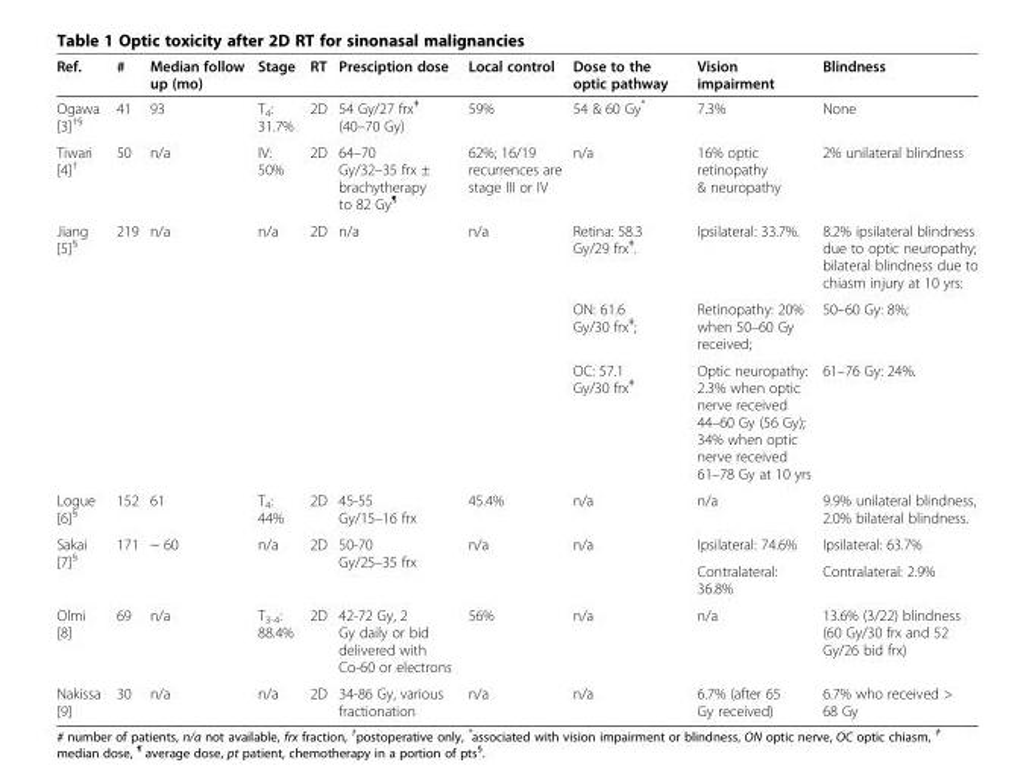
<table><thead><tr><td>Ref.</td><td>#</td><td>Median follow up (mo)</td><td>Stage</td><td>RT</td><td>Presciption dose</td><td>Local control</td><td>Dose to the optic pathway</td><td>Vision impairment</td><td>Blindness</td></tr></thead><tbody><tr><td>Ogawa [3]<sup>†§</sup></td><td>41</td><td>93</td><td>T<sub>4</sub>: 31.7%</td><td>2D</td><td>54 Gy/27 frx<sup>ǂ</sup> (40–70 Gy)</td><td>59%</td><td>54 &amp; 60 Gy*</td><td>7.3%</td><td>None</td></tr><tr><td>Tiwari [4]<sup>†</sup></td><td>50</td><td>n/a</td><td>IV: 50%</td><td>2D</td><td>64–70 Gy/32–35 frx ± brachytherapy to 82 Gy<sup>¶</sup></td><td>62%; 16/19 recurrences are stage III or IV</td><td>n/a</td><td>16% optic retinopathy &amp; neuropathy</td><td>2% unilateral blindness</td></tr><tr><td rowspan="3">Jiang [5]<sup>§</sup></td><td rowspan="3">219</td><td rowspan="3">n/a</td><td rowspan="3">n/a</td><td rowspan="3">2D</td><td rowspan="3">n/a</td><td rowspan="3">n/a</td><td>Retina: 58.3 Gy/29 frx<sup>ǂ</sup>.</td><td>Ipsilateral: 33.7%.</td><td>8.2% ipsilateral blindness due to optic neuropathy; bilateral blindness due to chiasm injury at 10 yrs:</td></tr><tr><td>ON: 61.6 Gy/30 frx<sup>ǂ</sup>;</td><td>Retinopathy: 20% when 50–60 Gy received;</td><td>50–60 Gy: 8%;</td></tr><tr><td>OC: 57.1 Gy/30 frx<sup>ǂ</sup></td><td>Optic neuropathy: 2.3% when optic nerve received 44–60 Gy (56 Gy); 34% when optic nerve received 61–78 Gy at 10 yrs</td><td>61–76 Gy: 24%.</td></tr><tr><td>Logue [6]<sup>§</sup></td><td>152</td><td>61</td><td>T<sub>4</sub>: 44%</td><td>2D</td><td>45-55 Gy/15–16 frx</td><td>45.4%</td><td>n/a</td><td>n/a</td><td>9.9% unilateral blindness, 2.0% bilateral blindness.</td></tr><tr><td rowspan="2">Sakai [7]<sup>§</sup></td><td rowspan="2">171</td><td rowspan="2">~ 60</td><td rowspan="2">n/a</td><td rowspan="2">2D</td><td rowspan="2">50-70 Gy/25–35 frx</td><td rowspan="2">n/a</td><td rowspan="2">n/a</td><td>Ipsilateral: 74.6%</td><td>Ipsilateral: 63.7%</td></tr><tr><td>Contralateral: 36.8%</td><td>Contralateral: 2.9%</td></tr><tr><td>Olmi [8]</td><td>69</td><td>n/a</td><td>T<sub>3-4</sub>: 88.4%</td><td>2D</td><td>42-72 Gy, 2 Gy daily or bid delivered with Co-60 or electrons</td><td>56%</td><td>n/a</td><td>n/a</td><td>13.6% (3/22) blindness (60 Gy/30 frx and 52 Gy/26 bid frx)</td></tr><tr><td>Nakissa [9]</td><td>30</td><td>n/a</td><td>n/a</td><td>2D</td><td>34-86 Gy, various fractionation</td><td>n/a</td><td>n/a</td><td>6.7% (after 65 Gy received)</td><td>6.7% who received &gt; 68 Gy</td></tr></tbody></table>